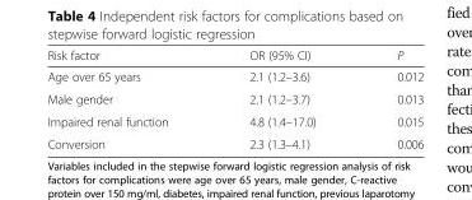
<table><thead><tr><td>Risk factor</td><td>OR (95% CI)</td><td>P</td></tr></thead><tbody><tr><td>Age over 65 years</td><td>2.1 (1.2–3.6)</td><td>0.012</td></tr><tr><td>Male gender</td><td>2.1 (1.2–3.7)</td><td>0.013</td></tr><tr><td>Impaired renal function</td><td>4.8 (1.4–17.0)</td><td>0.015</td></tr><tr><td>Conversion</td><td>2.3 (1.3–4.1)</td><td>0.006</td></tr></tbody></table>